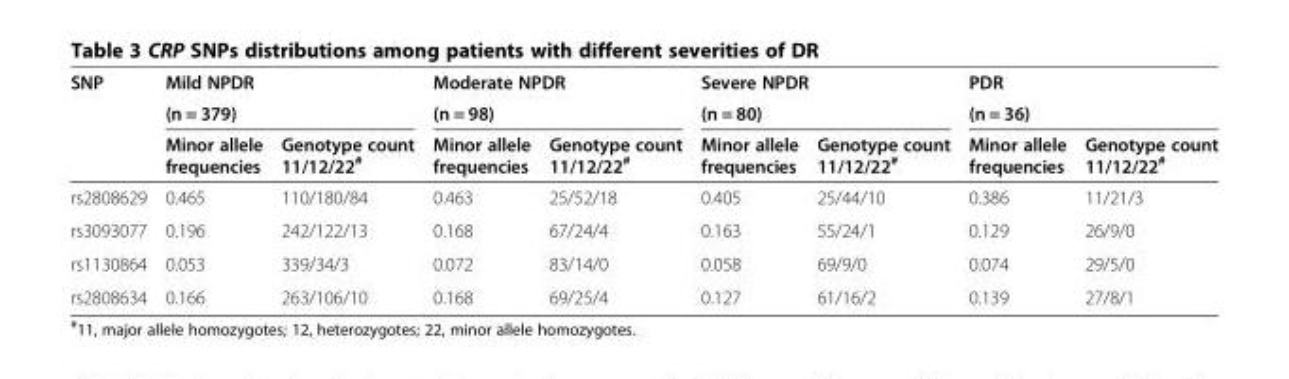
<table><thead><tr><td rowspan="3">SNP</td><td rowspan="2" colspan="2">Mild NPDR (n = 379)</td><td rowspan="2" colspan="2">Moderate NPDR (n = 98)</td><td rowspan="2" colspan="2">Severe NPDR (n = 80)</td><td rowspan="2" colspan="2">PDR (n = 36)</td></tr><tr></tr><tr><td>Minor allele frequencies</td><td>Genotype count 11/12/22<sup>#</sup></td><td>Minor allele frequencies</td><td>Genotype count 11/12/22<sup>#</sup></td><td>Minor allele frequencies</td><td>Genotype count 11/12/22<sup>#</sup></td><td>Minor allele frequencies</td><td>Genotype count 11/12/22<sup>#</sup></td></tr></thead><tbody><tr><td>rs2808629</td><td>0.465</td><td>110/180/84</td><td>0.463</td><td>25/52/18</td><td>0.405</td><td>25/44/10</td><td>0.386</td><td>11/21/3</td></tr><tr><td>rs3093077</td><td>0.196</td><td>242/122/13</td><td>0.168</td><td>67/24/4</td><td>0.163</td><td>55/24/1</td><td>0.129</td><td>26/9/0</td></tr><tr><td>rs1130864</td><td>0.053</td><td>339/34/3</td><td>0.072</td><td>83/14/0</td><td>0.058</td><td>69/9/0</td><td>0.074</td><td>29/5/0</td></tr><tr><td>rs2808634</td><td>0.166</td><td>263/106/10</td><td>0.168</td><td>69/25/4</td><td>0.127</td><td>61/16/2</td><td>0.139</td><td>27/8/1</td></tr></tbody></table>